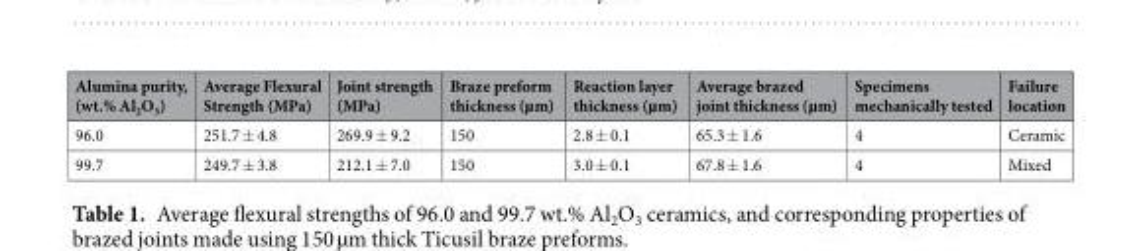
<table><thead><tr><td>Alumina purity, (wt.% Al<sub>2</sub>O<sub>3</sub>)</td><td>Average Flexural Strength (MPa)</td><td>Joint strength (MPa)</td><td>Braze preform thickness (µm)</td><td>Reaction layer thickness (µm)</td><td>Average brazed joint thickness (µm)</td><td>Specimens mechanically tested</td><td>Failure location</td></tr></thead><tbody><tr><td>96.0</td><td>251.7 ± 4.8</td><td>269.9 ± 9.2</td><td>150</td><td>2.8 ± 0.1</td><td>65.3 ± 1.6</td><td>4</td><td>Ceramic</td></tr><tr><td>99.7</td><td>249.7 ± 3.8</td><td>212.1 ± 7.0</td><td>150</td><td>3.0 ± 0.1</td><td>67.8 ± 1.6</td><td>4</td><td>Mixed</td></tr></tbody></table>